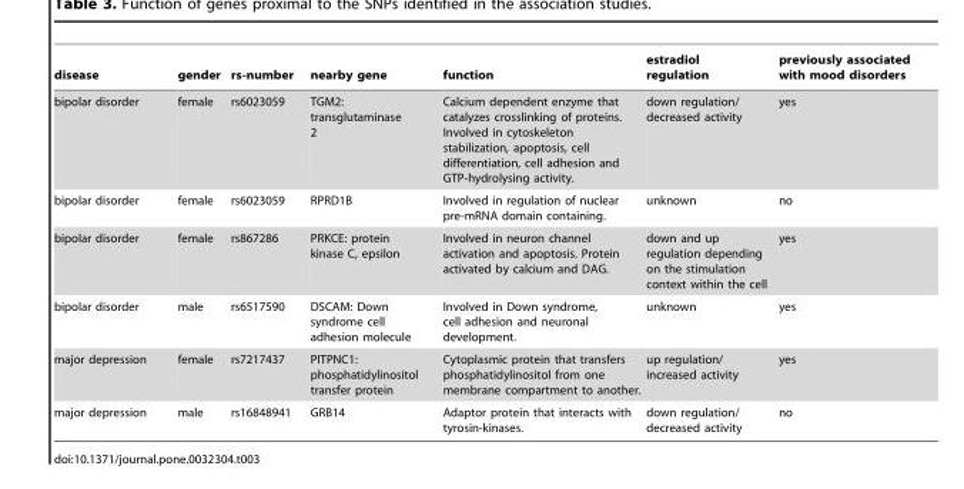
<table><thead><tr><td>disease</td><td>gender</td><td>rs-number</td><td>nearby gene</td><td>function</td><td>estradiol regulation</td><td>previously associated with mood disorders</td></tr></thead><tbody><tr><td>bipolar disorder</td><td>female</td><td>rs6023059</td><td>TGM2: transglutaminase 2</td><td>Calcium dependent enzyme that catalyzes crosslinking of proteins. Involved in cytoskeleton stabilization, apoptosis, cell differentiation, cell adhesion and GTP-hydrolysing activity.</td><td>down regulation/ decreased activity</td><td>yes</td></tr><tr><td>bipolar disorder</td><td>female</td><td>rs6023059</td><td>RPRD1B</td><td>Involved in regulation of nuclear pre-mRNA domain containing.</td><td>unknown</td><td>no</td></tr><tr><td>bipolar disorder</td><td>female</td><td>rs867286</td><td>PRKCE: protein kinase C, epsilon</td><td>Involved in neuron channel activation and apoptosis. Protein activated by calcium and DAG.</td><td>down and up regulation depending on the stimulation context within the cell</td><td>yes</td></tr><tr><td>bipolar disorder</td><td>male</td><td>rs6517590</td><td>DSCAM: Down syndrome cell adhesion molecule</td><td>Involved in Down syndrome, cell adhesion and neuronal development.</td><td>unknown</td><td>yes</td></tr><tr><td>major depression</td><td>female</td><td>rs7217437</td><td>PITPNC1: phosphatidylinositol transfer protein</td><td>Cytoplasmic protein that transfers phosphatidylinositol from one membrane compartment to another.</td><td>up regulation/ increased activity</td><td>yes</td></tr><tr><td>major depression</td><td>male</td><td>rs16848941</td><td>GRB14</td><td>Adaptor protein that interacts with tyrosin-kinases.</td><td>down regulation/ decreased activity</td><td>no</td></tr></tbody></table>